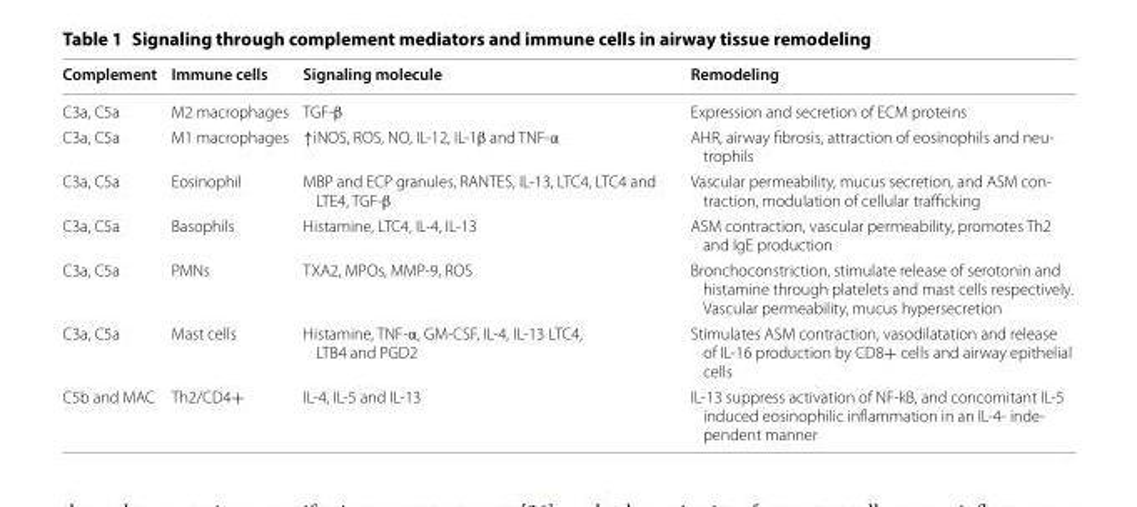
<table><thead><tr><td>Complement</td><td>Immune cells</td><td>Signaling molecule</td><td>Remodeling</td></tr></thead><tbody><tr><td>C3a, C5a</td><td>M2 macrophages</td><td>TGF-β</td><td>Expression and secretion of ECM proteins</td></tr><tr><td>C3a, C5a</td><td>M1 macrophages</td><td>↑iNOS, ROS, NO, IL-12, IL-1β and TNF-α</td><td>AHR, airway fibrosis, attraction of eosinophils and neu- trophils</td></tr><tr><td>C3a, C5a</td><td>Eosinophil</td><td>MBP and ECP granules, RANTES, IL-13, LTC4, LTC4 and LTE4, TGF-β</td><td>Vascular permeability, mucus secretion, and ASM con- traction, modulation of cellular trafficking</td></tr><tr><td>C3a, C5a</td><td>Basophils</td><td>Histamine, LTC4, IL-4, IL-13</td><td>ASM contraction, vascular permeability, promotes Th2 and IgE production</td></tr><tr><td>C3a, C5a</td><td>PMNs</td><td>TXA2, MPOs, MMP-9, ROS</td><td>Bronchoconstriction, stimulate release of serotonin and histamine through platelets and mast cells respectively. Vascular permeability, mucus hypersecretion</td></tr><tr><td>C3a, C5a</td><td>Mast cells</td><td>Histamine, TNF-α, GM-CSF, IL-4, IL-13 LTC4, LTB4 and PGD2</td><td>Stimulates ASM contraction, vasodilatation and release of IL-16 production by CD8+ cells and airway epithelial cells</td></tr><tr><td>C5b and MAC</td><td>Th2/CD4+</td><td>IL-4, IL-5 and IL-13</td><td>IL-13 suppress activation of NF-kB, and concomitant IL-5 induced eosinophilic inflammation in an IL-4- inde- pendent manner</td></tr></tbody></table>